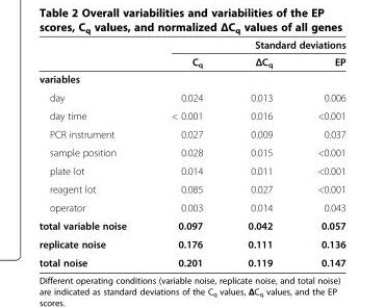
<table><thead><tr><td rowspan="2"></td><td colspan="3">Standard deviations</td></tr><tr><td>C<sub>q</sub></td><td>ΔC<sub>q</sub></td><td>EP</td></tr></thead><tbody><tr><td colspan="4">variables</td></tr><tr><td>day</td><td>0.024</td><td>0.013</td><td>0.006</td></tr><tr><td>day time</td><td>&lt; 0.001</td><td>0.016</td><td>&lt;0.001</td></tr><tr><td>PCR instrument</td><td>0.027</td><td>0.009</td><td>0.037</td></tr><tr><td>sample position</td><td>0.028</td><td>0.015</td><td>&lt;0.001</td></tr><tr><td>plate lot</td><td>0.014</td><td>0.011</td><td>&lt;0.001</td></tr><tr><td>reagent lot</td><td>0.085</td><td>0.027</td><td>&lt;0.001</td></tr><tr><td>operator</td><td>0.003</td><td>0.014</td><td>0.043</td></tr><tr><td>total variable noise</td><td>0.097</td><td>0.042</td><td>0.057</td></tr><tr><td>replicate noise</td><td>0.176</td><td>0.111</td><td>0.136</td></tr><tr><td>total noise</td><td>0.201</td><td>0.119</td><td>0.147</td></tr></tbody></table>